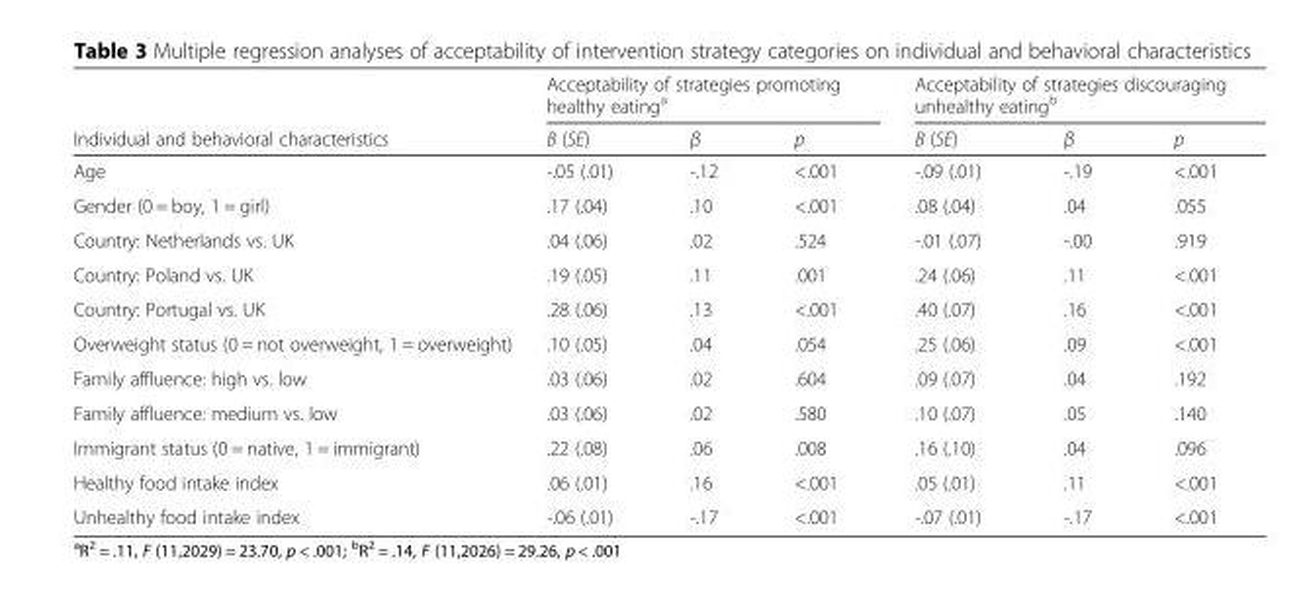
<table><thead><tr><td rowspan="2">Individual and behavioral characteristics</td><td colspan="3">Acceptability of strategies promoting healthy eating<sup>a</sup></td><td colspan="3">Acceptability of strategies discouraging unhealthy eating<sup>b</sup></td></tr><tr><td>B (SE)</td><td>β</td><td>p</td><td>B (SE)</td><td>β</td><td>p</td></tr></thead><tbody><tr><td>Age</td><td>-.05 (.01)</td><td>-.12</td><td>&lt;.001</td><td>-.09 (.01)</td><td>-.19</td><td>&lt;.001</td></tr><tr><td>Gender (0 = boy, 1 = girl)</td><td>.17 (.04)</td><td>.10</td><td>&lt;.001</td><td>.08 (.04)</td><td>.04</td><td>.055</td></tr><tr><td>Country: Netherlands vs. UK</td><td>.04 (.06)</td><td>.02</td><td>.524</td><td>-.01 (.07)</td><td>-.00</td><td>.919</td></tr><tr><td>Country: Poland vs. UK</td><td>.19 (.05)</td><td>.11</td><td>.001</td><td>.24 (.06)</td><td>.11</td><td>&lt;.001</td></tr><tr><td>Country: Portugal vs. UK</td><td>.28 (.06)</td><td>.13</td><td>&lt;.001</td><td>.40 (.07)</td><td>.16</td><td>&lt;.001</td></tr><tr><td>Overweight status (0 = not overweight, 1 = overweight)</td><td>.10 (.05)</td><td>.04</td><td>.054</td><td>.25 (.06)</td><td>.09</td><td>&lt;.001</td></tr><tr><td>Family affluence: high vs. low</td><td>.03 (.06)</td><td>.02</td><td>.604</td><td>.09 (.07)</td><td>.04</td><td>.192</td></tr><tr><td>Family affluence: medium vs. low</td><td>.03 (.06)</td><td>.02</td><td>.580</td><td>.10 (.07)</td><td>.05</td><td>.140</td></tr><tr><td>Immigrant status (0 = native, 1 = immigrant)</td><td>.22 (.08)</td><td>.06</td><td>.008</td><td>.16 (.10)</td><td>.04</td><td>.096</td></tr><tr><td>Healthy food intake index</td><td>.06 (.01)</td><td>.16</td><td>&lt;.001</td><td>.05 (.01)</td><td>.11</td><td>&lt;.001</td></tr><tr><td>Unhealthy food intake index</td><td>-.06 (.01)</td><td>-.17</td><td>&lt;.001</td><td>-.07 (.01)</td><td>-.17</td><td>&lt;.001</td></tr></tbody></table>